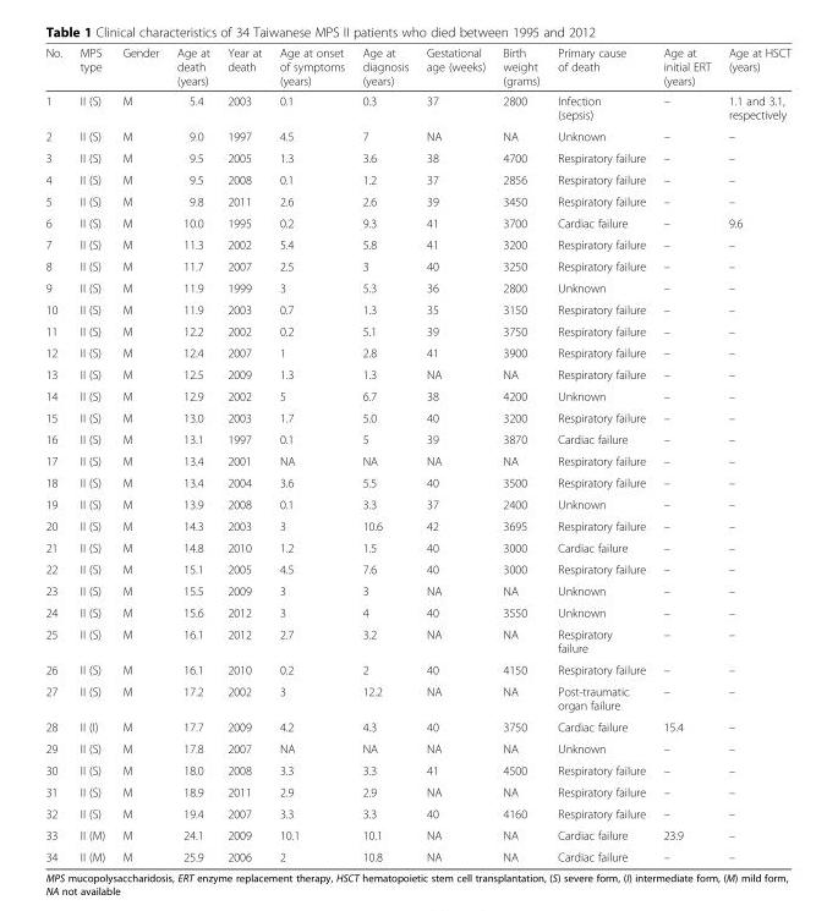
<table><thead><tr><td>No.</td><td>MPS type</td><td>Gender</td><td>Age at death (years)</td><td>Year at death</td><td>Age at onset of symptoms (years)</td><td>Age at diagnosis (years)</td><td>Gestational age (weeks)</td><td>Birth weight (grams)</td><td>Primary cause of death</td><td>Age at initial ERT (years)</td><td>Age at HSCT (years)</td></tr></thead><tbody><tr><td>1</td><td>II (S)</td><td>M</td><td>5.4</td><td>2003</td><td>0.1</td><td>0.3</td><td>37</td><td>2800</td><td>Infection (sepsis)</td><td>–</td><td>1.1 and 3.1, respectively</td></tr><tr><td>2</td><td>II (S)</td><td>M</td><td>9.0</td><td>1997</td><td>4.5</td><td>7</td><td>NA</td><td>NA</td><td>Unknown</td><td>–</td><td>–</td></tr><tr><td>3</td><td>II (S)</td><td>M</td><td>9.5</td><td>2005</td><td>1.3</td><td>3.6</td><td>38</td><td>4700</td><td>Respiratory failure</td><td>–</td><td>–</td></tr><tr><td>4</td><td>II (S)</td><td>M</td><td>9.5</td><td>2008</td><td>0.1</td><td>1.2</td><td>37</td><td>2856</td><td>Respiratory failure</td><td>–</td><td>–</td></tr><tr><td>5</td><td>II (S)</td><td>M</td><td>9.8</td><td>2011</td><td>2.6</td><td>2.6</td><td>39</td><td>3450</td><td>Respiratory failure</td><td>–</td><td>–</td></tr><tr><td>6</td><td>II (S)</td><td>M</td><td>10.0</td><td>1995</td><td>0.2</td><td>9.3</td><td>41</td><td>3700</td><td>Cardiac failure</td><td>–</td><td>9.6</td></tr><tr><td>7</td><td>II (S)</td><td>M</td><td>11.3</td><td>2002</td><td>5.4</td><td>5.8</td><td>41</td><td>3200</td><td>Respiratory failure</td><td>–</td><td>–</td></tr><tr><td>8</td><td>II (S)</td><td>M</td><td>11.7</td><td>2007</td><td>2.5</td><td>3</td><td>40</td><td>3250</td><td>Respiratory failure</td><td>–</td><td>–</td></tr><tr><td>9</td><td>II (S)</td><td>M</td><td>11.9</td><td>1999</td><td>3</td><td>5.3</td><td>36</td><td>2800</td><td>Unknown</td><td>–</td><td>–</td></tr><tr><td>10</td><td>II (S)</td><td>M</td><td>11.9</td><td>2003</td><td>0.7</td><td>1.3</td><td>35</td><td>3150</td><td>Respiratory failure</td><td>–</td><td>–</td></tr><tr><td>11</td><td>II (S)</td><td>M</td><td>12.2</td><td>2002</td><td>0.2</td><td>5.1</td><td>39</td><td>3750</td><td>Respiratory failure</td><td>–</td><td>–</td></tr><tr><td>12</td><td>II (S)</td><td>M</td><td>12.4</td><td>2007</td><td>1</td><td>2.8</td><td>41</td><td>3900</td><td>Respiratory failure</td><td>–</td><td>–</td></tr><tr><td>13</td><td>II (S)</td><td>M</td><td>12.5</td><td>2009</td><td>1.3</td><td>1.3</td><td>NA</td><td>NA</td><td>Respiratory failure</td><td>–</td><td>–</td></tr><tr><td>14</td><td>II (S)</td><td>M</td><td>12.9</td><td>2002</td><td>5</td><td>6.7</td><td>38</td><td>4200</td><td>Unknown</td><td>–</td><td>–</td></tr><tr><td>15</td><td>II (S)</td><td>M</td><td>13.0</td><td>2003</td><td>1.7</td><td>5.0</td><td>40</td><td>3200</td><td>Respiratory failure</td><td>–</td><td>–</td></tr><tr><td>16</td><td>II (S)</td><td>M</td><td>13.1</td><td>1997</td><td>0.1</td><td>5</td><td>39</td><td>3870</td><td>Cardiac failure</td><td>–</td><td>–</td></tr><tr><td>17</td><td>II (S)</td><td>M</td><td>13.4</td><td>2001</td><td>NA</td><td>NA</td><td>NA</td><td>NA</td><td>Respiratory failure</td><td>–</td><td>–</td></tr><tr><td>18</td><td>II (S)</td><td>M</td><td>13.4</td><td>2004</td><td>3.6</td><td>5.5</td><td>40</td><td>3500</td><td>Respiratory failure</td><td>–</td><td>–</td></tr><tr><td>19</td><td>II (S)</td><td>M</td><td>13.9</td><td>2008</td><td>0.1</td><td>3.3</td><td>37</td><td>2400</td><td>Unknown</td><td>–</td><td>–</td></tr><tr><td>20</td><td>II (S)</td><td>M</td><td>14.3</td><td>2003</td><td>3</td><td>10.6</td><td>42</td><td>3695</td><td>Respiratory failure</td><td>–</td><td>–</td></tr><tr><td>21</td><td>II (S)</td><td>M</td><td>14.8</td><td>2010</td><td>1.2</td><td>1.5</td><td>40</td><td>3000</td><td>Cardiac failure</td><td>–</td><td>–</td></tr><tr><td>22</td><td>II (S)</td><td>M</td><td>15.1</td><td>2005</td><td>4.5</td><td>7.6</td><td>40</td><td>3000</td><td>Respiratory failure</td><td>–</td><td>–</td></tr><tr><td>23</td><td>II (S)</td><td>M</td><td>15.5</td><td>2009</td><td>3</td><td>3</td><td>NA</td><td>NA</td><td>Unknown</td><td>–</td><td>–</td></tr><tr><td>24</td><td>II (S)</td><td>M</td><td>15.6</td><td>2012</td><td>3</td><td>4</td><td>40</td><td>3550</td><td>Unknown</td><td>–</td><td>–</td></tr><tr><td>25</td><td>II (S)</td><td>M</td><td>16.1</td><td>2012</td><td>2.7</td><td>3.2</td><td>NA</td><td>NA</td><td>Respiratory failure</td><td>–</td><td>–</td></tr><tr><td>26</td><td>II (S)</td><td>M</td><td>16.1</td><td>2010</td><td>0.2</td><td>2</td><td>40</td><td>4150</td><td>Respiratory failure</td><td>–</td><td>–</td></tr><tr><td>27</td><td>II (S)</td><td>M</td><td>17.2</td><td>2002</td><td>3</td><td>12.2</td><td>NA</td><td>NA</td><td>Post-traumatic organ failure</td><td>–</td><td>–</td></tr><tr><td>28</td><td>II (I)</td><td>M</td><td>17.7</td><td>2009</td><td>4.2</td><td>4.3</td><td>40</td><td>3750</td><td>Cardiac failure</td><td>15.4</td><td>–</td></tr><tr><td>29</td><td>II (S)</td><td>M</td><td>17.8</td><td>2007</td><td>NA</td><td>NA</td><td>NA</td><td>NA</td><td>Unknown</td><td>–</td><td>–</td></tr><tr><td>30</td><td>II (S)</td><td>M</td><td>18.0</td><td>2008</td><td>3.3</td><td>3.3</td><td>41</td><td>4500</td><td>Respiratory failure</td><td>–</td><td>–</td></tr><tr><td>31</td><td>II (S)</td><td>M</td><td>18.9</td><td>2011</td><td>2.9</td><td>2.9</td><td>NA</td><td>NA</td><td>Respiratory failure</td><td>–</td><td>–</td></tr><tr><td>32</td><td>II (S)</td><td>M</td><td>19.4</td><td>2007</td><td>3.3</td><td>3.3</td><td>40</td><td>4160</td><td>Respiratory failure</td><td>–</td><td>–</td></tr><tr><td>33</td><td>II (M)</td><td>M</td><td>24.1</td><td>2009</td><td>10.1</td><td>10.1</td><td>NA</td><td>NA</td><td>Cardiac failure</td><td>23.9</td><td>–</td></tr><tr><td>34</td><td>II (M)</td><td>M</td><td>25.9</td><td>2006</td><td>2</td><td>10.8</td><td>NA</td><td>NA</td><td>Cardiac failure</td><td>–</td><td>–</td></tr></tbody></table>